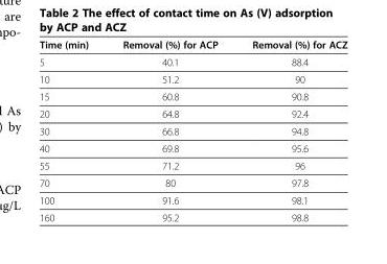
<table><thead><tr><td>Time (min)</td><td>Removal (%) for ACP</td><td>Removal (%) for ACZ</td></tr></thead><tbody><tr><td>5</td><td>40.1</td><td>88.4</td></tr><tr><td>10</td><td>51.2</td><td>90</td></tr><tr><td>15</td><td>60.8</td><td>90.8</td></tr><tr><td>20</td><td>64.8</td><td>92.4</td></tr><tr><td>30</td><td>66.8</td><td>94.8</td></tr><tr><td>40</td><td>69.8</td><td>95.6</td></tr><tr><td>55</td><td>71.2</td><td>96</td></tr><tr><td>70</td><td>80</td><td>97.8</td></tr><tr><td>100</td><td>91.6</td><td>98.1</td></tr><tr><td>160</td><td>95.2</td><td>98.8</td></tr></tbody></table>